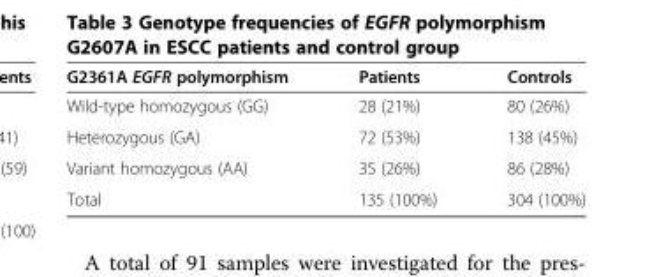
<table><thead><tr><td>G2361A EGFR polymorphism</td><td>Patients</td><td>Controls</td></tr></thead><tbody><tr><td>Wild-type homozygous (GG)</td><td>28 (21%)</td><td>80 (26%)</td></tr><tr><td>Heterozygous (GA)</td><td>72 (53%)</td><td>138 (45%)</td></tr><tr><td>Variant homozygous (AA)</td><td>35 (26%)</td><td>86 (28%)</td></tr><tr><td>Total</td><td>135 (100%)</td><td>304 (100%)</td></tr></tbody></table>